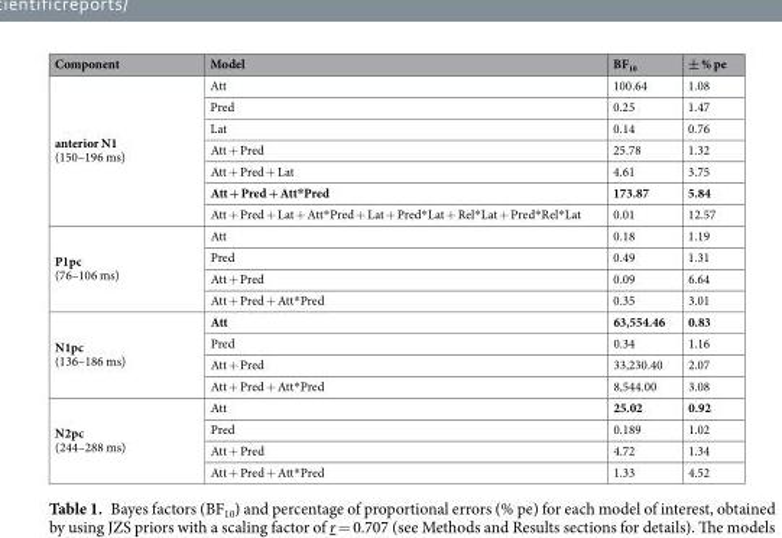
<table><thead><tr><td>Component</td><td>Model</td><td>BF<sub>10</sub></td><td>± % pe</td></tr></thead><tbody><tr><td rowspan="7">anterior N1 (150–196 ms)</td><td>Att</td><td>100.64</td><td>1.08</td></tr><tr><td>Pred</td><td>0.25</td><td>1.47</td></tr><tr><td>Lat</td><td>0.14</td><td>0.76</td></tr><tr><td>Att + Pred</td><td>25.78</td><td>1.32</td></tr><tr><td>Att + Pred + Lat</td><td>4.61</td><td>3.75</td></tr><tr><td>Att + Pred + Att*Pred</td><td>173.87</td><td>5.84</td></tr><tr><td>Att + Pred + Lat + Att*Pred + Lat + Pred*Lat + Rel*Lat + Pred*Rel*Lat</td><td>0.01</td><td>12.57</td></tr><tr><td rowspan="4">P1pc (76–106 ms)</td><td>Att</td><td>0.18</td><td>1.19</td></tr><tr><td>Pred</td><td>0.49</td><td>1.31</td></tr><tr><td>Att + Pred</td><td>0.09</td><td>6.64</td></tr><tr><td>Att + Pred + Att*Pred</td><td>0.35</td><td>3.01</td></tr><tr><td rowspan="4">N1pc (136–186 ms)</td><td>Att</td><td>63,554.46</td><td>0.83</td></tr><tr><td>Pred</td><td>0.34</td><td>1.16</td></tr><tr><td>Att + Pred</td><td>33,230.40</td><td>2.07</td></tr><tr><td>Att + Pred + Att*Pred</td><td>8,544.00</td><td>3.08</td></tr><tr><td rowspan="4">N2pc (244–288 ms)</td><td>Att</td><td>25.02</td><td>0.92</td></tr><tr><td>Pred</td><td>0.189</td><td>1.02</td></tr><tr><td>Att + Pred</td><td>4.72</td><td>1.34</td></tr><tr><td>Att + Pred + Att*Pred</td><td>1.33</td><td>4.52</td></tr></tbody></table>